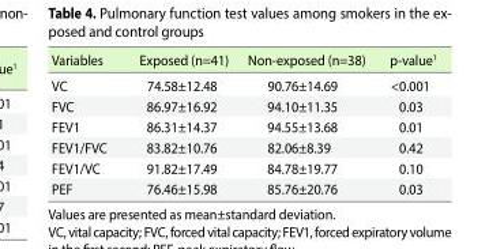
<table><thead><tr><td>Variables</td><td>Exposed (n=41)</td><td>Non-exposed (n=38)</td><td>p-value<sup>1</sup></td></tr></thead><tbody><tr><td>VC</td><td>74.58±12.48</td><td>90.76±14.69</td><td>&lt;0.001</td></tr><tr><td>FVC</td><td>86.97±16.92</td><td>94.10±11.35</td><td>0.03</td></tr><tr><td>FEV1</td><td>86.31±14.37</td><td>94.55±13.68</td><td>0.01</td></tr><tr><td>FEV1/FVC</td><td>83.82±10.76</td><td>82.06±8.39</td><td>0.42</td></tr><tr><td>FEV1/VC</td><td>91.82±17.49</td><td>84.78±19.77</td><td>0.10</td></tr><tr><td>PEF</td><td>76.46±15.98</td><td>85.76±20.76</td><td>0.03</td></tr></tbody></table>